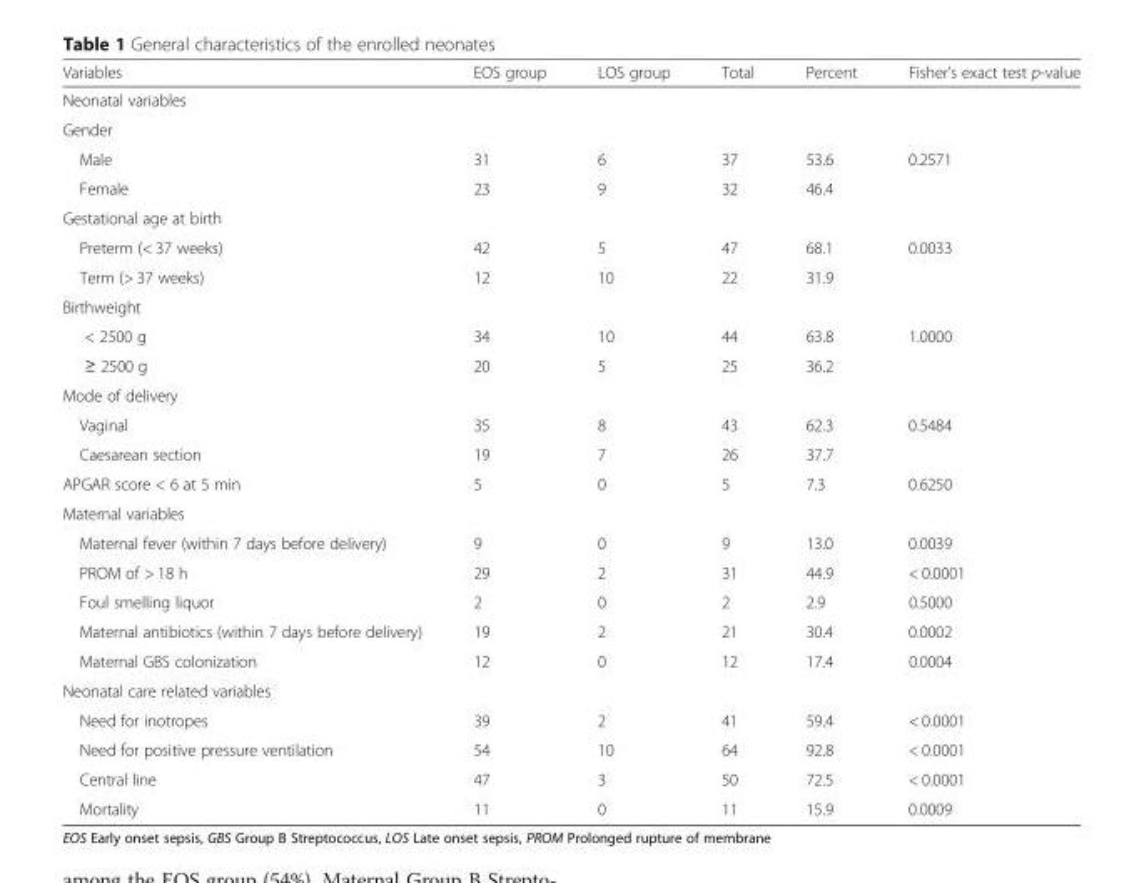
<table><thead><tr><td>Variables</td><td>EOS group</td><td>LOS group</td><td>Total</td><td>Percent</td><td>Fisher’s exact test p-value</td></tr></thead><tbody><tr><td colspan="6">Neonatal variables</td></tr><tr><td colspan="6">Gender</td></tr><tr><td>Male</td><td>31</td><td>6</td><td>37</td><td>53.6</td><td rowspan="2">0.2571</td></tr><tr><td>Female</td><td>23</td><td>9</td><td>32</td><td>46.4</td></tr><tr><td colspan="6">Gestational age at birth</td></tr><tr><td>Preterm (&lt; 37 weeks)</td><td>42</td><td>5</td><td>47</td><td>68.1</td><td rowspan="2">0.0033</td></tr><tr><td>Term (&gt; 37 weeks)</td><td>12</td><td>10</td><td>22</td><td>31.9</td></tr><tr><td colspan="6">Birthweight</td></tr><tr><td>&lt; 2500 g</td><td>34</td><td>10</td><td>44</td><td>63.8</td><td rowspan="2">1.0000</td></tr><tr><td>≥ 2500 g</td><td>20</td><td>5</td><td>25</td><td>36.2</td></tr><tr><td colspan="6">Mode of delivery</td></tr><tr><td>Vaginal</td><td>35</td><td>8</td><td>43</td><td>62.3</td><td rowspan="2">0.5484</td></tr><tr><td>Caesarean section</td><td>19</td><td>7</td><td>26</td><td>37.7</td></tr><tr><td>APGAR score &lt; 6 at 5 min</td><td>5</td><td>0</td><td>5</td><td>7.3</td><td>0.6250</td></tr><tr><td colspan="6">Maternal variables</td></tr><tr><td>Maternal fever (within 7 days before delivery)</td><td>9</td><td>0</td><td>9</td><td>13.0</td><td>0.0039</td></tr><tr><td>PROM of &gt; 18 h</td><td>29</td><td>2</td><td>31</td><td>44.9</td><td>&lt; 0.0001</td></tr><tr><td>Foul smelling liquor</td><td>2</td><td>0</td><td>2</td><td>2.9</td><td>0.5000</td></tr><tr><td>Maternal antibiotics (within 7 days before delivery)</td><td>19</td><td>2</td><td>21</td><td>30.4</td><td>0.0002</td></tr><tr><td>Maternal GBS colonization</td><td>12</td><td>0</td><td>12</td><td>17.4</td><td>0.0004</td></tr><tr><td colspan="6">Neonatal care related variables</td></tr><tr><td>Need for inotropes</td><td>39</td><td>2</td><td>41</td><td>59.4</td><td>&lt; 0.0001</td></tr><tr><td>Need for positive pressure ventilation</td><td>54</td><td>10</td><td>64</td><td>92.8</td><td>&lt; 0.0001</td></tr><tr><td>Central line</td><td>47</td><td>3</td><td>50</td><td>72.5</td><td>&lt; 0.0001</td></tr><tr><td>Mortality</td><td>11</td><td>0</td><td>11</td><td>15.9</td><td>0.0009</td></tr></tbody></table>